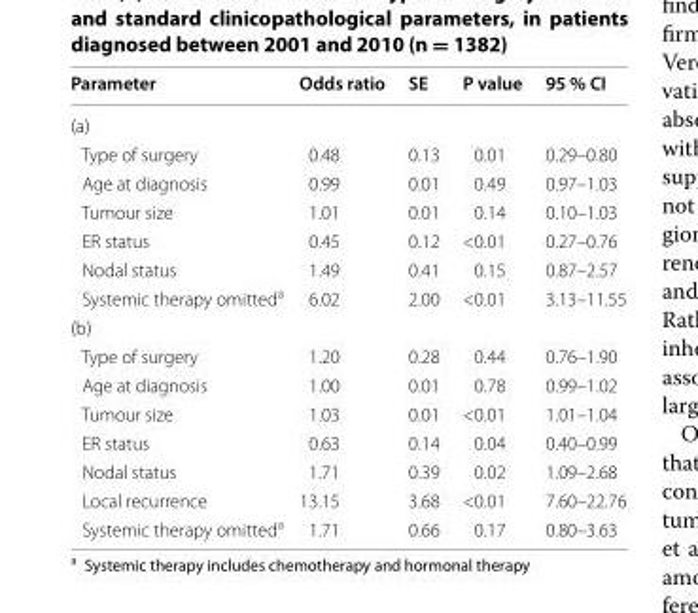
<table><thead><tr><td>Parameter</td><td>Odds ratio</td><td>SE</td><td>P value</td><td>95 % CI</td></tr></thead><tbody><tr><td colspan="5">(a)</td></tr><tr><td>Type of surgery</td><td>0.48</td><td>0.13</td><td>0.01</td><td>0.29–0.80</td></tr><tr><td>Age at diagnosis</td><td>0.99</td><td>0.01</td><td>0.49</td><td>0.97–1.03</td></tr><tr><td>Tumour size</td><td>1.01</td><td>0.01</td><td>0.14</td><td>0.10–1.03</td></tr><tr><td>ER status</td><td>0.45</td><td>0.12</td><td>&lt;0.01</td><td>0.27–0.76</td></tr><tr><td>Nodal status</td><td>1.49</td><td>0.41</td><td>0.15</td><td>0.87–2.57</td></tr><tr><td>Systemic therapy omitted<sup>a</sup></td><td>6.02</td><td>2.00</td><td>&lt;0.01</td><td>3.13–11.55</td></tr><tr><td colspan="5">(b)</td></tr><tr><td>Type of surgery</td><td>1.20</td><td>0.28</td><td>0.44</td><td>0.76–1.90</td></tr><tr><td>Age at diagnosis</td><td>1.00</td><td>0.01</td><td>0.78</td><td>0.99–1.02</td></tr><tr><td>Tumour size</td><td>1.03</td><td>0.01</td><td>&lt;0.01</td><td>1.01–1.04</td></tr><tr><td>ER status</td><td>0.63</td><td>0.14</td><td>0.04</td><td>0.40–0.99</td></tr><tr><td>Nodal status</td><td>1.71</td><td>0.39</td><td>0.02</td><td>1.09–2.68</td></tr><tr><td>Local recurrence</td><td>13.15</td><td>3.68</td><td>&lt;0.01</td><td>7.60–22.76</td></tr><tr><td>Systemic therapy omitted<sup>a</sup></td><td>1.71</td><td>0.66</td><td>0.17</td><td>0.80–3.63</td></tr></tbody></table>